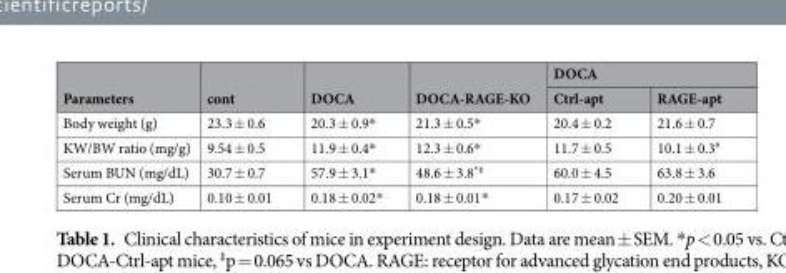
<table><thead><tr><td rowspan="2">Parameters</td><td rowspan="2">cont</td><td rowspan="2">DOCA</td><td rowspan="2">DOCA-RAGE-KO</td><td colspan="2">DOCA</td></tr><tr><td>Ctrl-apt</td><td>RAGE-apt</td></tr></thead><tbody><tr><td>Body weight (g)</td><td>23.3 ± 0.6</td><td>20.3 ± 0.9*</td><td>21.3 ± 0.5*</td><td>20.4 ± 0.2</td><td>21.6 ± 0.7</td></tr><tr><td>KW/BW ratio (mg/g)</td><td>9.54 ± 0.5</td><td>11.9 ± 0.4*</td><td>12.3 ± 0.6*</td><td>11.7 ± 0.5</td><td>10.1 ± 0.3<sup>#</sup></td></tr><tr><td>Serum BUN (mg/dL)</td><td>30.7 ± 0.7</td><td>57.9 ± 3.1*</td><td>48.6 ± 3.8<sup>*‡</sup></td><td>60.0 ± 4.5</td><td>63.8 ± 3.6</td></tr><tr><td>Serum Cr (mg/dL)</td><td>0.10 ± 0.01</td><td>0.18 ± 0.02*</td><td>0.18 ± 0.01*</td><td>0.17 ± 0.02</td><td>0.20 ± 0.01</td></tr></tbody></table>